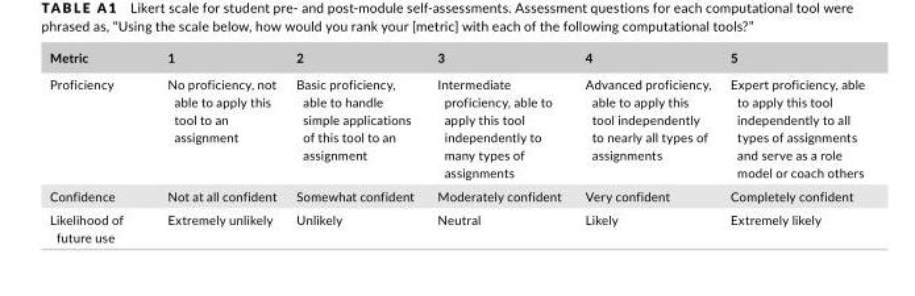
<table><thead><tr><td>Metric</td><td>1</td><td>2</td><td>3</td><td>4</td><td>5</td></tr></thead><tbody><tr><td>Proficiency</td><td>No proficiency, not able to apply this tool to an assignment</td><td>Basic proficiency, able to handle simple applications of this tool to an assignment</td><td>Intermediate proficiency, able to apply this tool independently to many types of assignments</td><td>Advanced proficiency, able to apply this tool independently to nearly all types of assignments</td><td>Expert proficiency, able to apply this tool independently to all types of assignments and serve as a role model or coach others</td></tr><tr><td>Confidence</td><td>Not at all confident</td><td>Somewhat confident</td><td>Moderately confident</td><td>Very confident</td><td>Completely confident</td></tr><tr><td>Likelihood of future use</td><td>Extremely unlikely</td><td>Unlikely</td><td>Neutral</td><td>Likely</td><td>Extremely likely</td></tr></tbody></table>